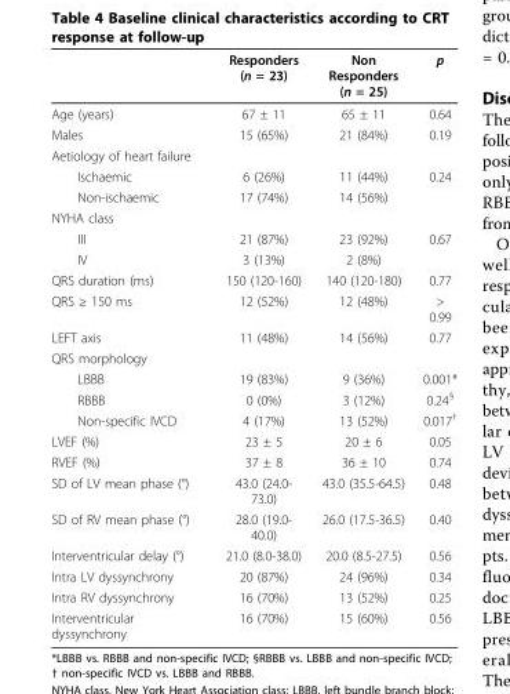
<table><thead><tr><td></td><td>Responders (n = 23)</td><td>Non Responders (n = 25)</td><td>p</td></tr></thead><tbody><tr><td>Age (years)</td><td>67 ± 11</td><td>65 ± 11</td><td>0.64</td></tr><tr><td>Males</td><td>15 (65%)</td><td>21 (84%)</td><td>0.19</td></tr><tr><td colspan="4">Aetiology of heart failure</td></tr><tr><td>Ischaemic</td><td>6 (26%)</td><td>11 (44%)</td><td>0.24</td></tr><tr><td>Non-ischaemic</td><td>17 (74%)</td><td>14 (56%)</td><td></td></tr><tr><td colspan="4">NYHA class</td></tr><tr><td>III</td><td>21 (87%)</td><td>23 (92%)</td><td>0.67</td></tr><tr><td>IV</td><td>3 (13%)</td><td>2 (8%)</td><td></td></tr><tr><td>QRS duration (ms)</td><td>150 (120-160)</td><td>140 (120-180)</td><td>0.77</td></tr><tr><td>QRS ≥ 150 ms</td><td>12 (52%)</td><td>12 (48%)</td><td>&gt; 0.99</td></tr><tr><td>LEFT axis</td><td>11 (48%)</td><td>14 (56%)</td><td>0.77</td></tr><tr><td colspan="4">QRS morphology</td></tr><tr><td>LBBB</td><td>19 (83%)</td><td>9 (36%)</td><td>0.001*</td></tr><tr><td>RBBB</td><td>0 (0%)</td><td>3 (12%)</td><td>0.24<sup>§</sup></td></tr><tr><td>Non-specific IVCD</td><td>4 (17%)</td><td>13 (52%)</td><td>0.017<sup>†</sup></td></tr><tr><td>LVEF (%)</td><td>23 ± 5</td><td>20 ± 6</td><td>0.05</td></tr><tr><td>RVEF (%)</td><td>37 ± 8</td><td>36 ± 10</td><td>0.74</td></tr><tr><td>SD of LV mean phase (°)</td><td>43.0 (24.0- 73.0)</td><td>43.0 (35.5-64.5)</td><td>0.48</td></tr><tr><td>SD of RV mean phase (°)</td><td>28.0 (19.0- 40.0)</td><td>26.0 (17.5-36.5)</td><td>0.40</td></tr><tr><td>Interventricular delay (°)</td><td>21.0 (8.0-38.0)</td><td>20.0 (8.5-27.5)</td><td>0.56</td></tr><tr><td>Intra LV dyssynchrony</td><td>20 (87%)</td><td>24 (96%)</td><td>0.34</td></tr><tr><td>Intra RV dyssynchrony</td><td>16 (70%)</td><td>13 (52%)</td><td>0.25</td></tr><tr><td>Interventricular dyssynchrony</td><td>16 (70%)</td><td>15 (60%)</td><td>0.56</td></tr></tbody></table>